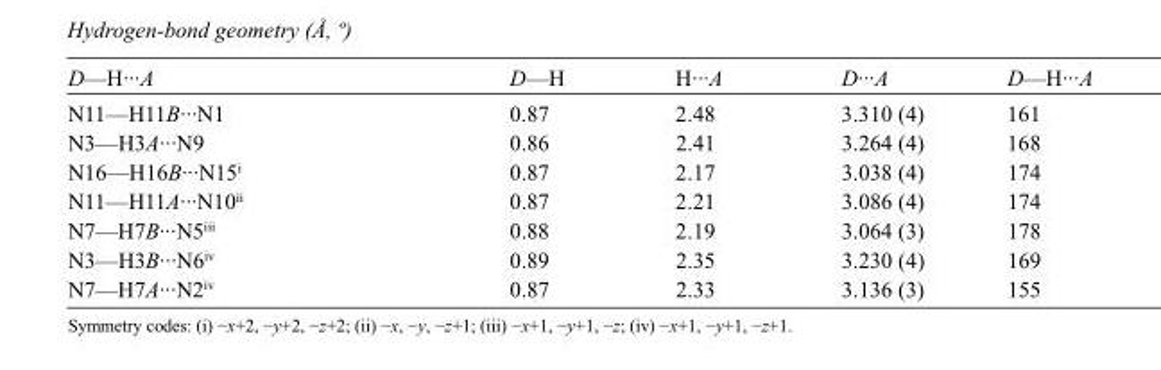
<table><tbody><tr><td>D—H···A</td><td>D—H</td><td>H···A</td><td>D···A</td><td>D—H···A</td></tr><tr><td>N11—H11B···N1</td><td>0.87</td><td>2.48</td><td>3.310 (4)</td><td>161</td></tr><tr><td>N3—H3A···N9</td><td>0.86</td><td>2.41</td><td>3.264 (4)</td><td>168</td></tr><tr><td>N16—H16B···N15<sup>i</sup></td><td>0.87</td><td>2.17</td><td>3.038 (4)</td><td>174</td></tr><tr><td>N11—H11A···N10<sup>ii</sup></td><td>0.87</td><td>2.21</td><td>3.086 (4)</td><td>174</td></tr><tr><td>N7—H7B···N5<sup>iii</sup></td><td>0.88</td><td>2.19</td><td>3.064 (3)</td><td>178</td></tr><tr><td>N3—H3B···N6<sup>iv</sup></td><td>0.89</td><td>2.35</td><td>3.230 (4)</td><td>169</td></tr><tr><td>N7—H7A···N2<sup>iv</sup></td><td>0.87</td><td>2.33</td><td>3.136 (3)</td><td>155</td></tr></tbody></table>